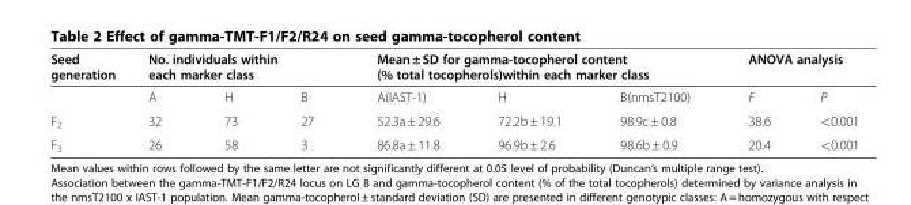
<table><thead><tr><td rowspan="2">Seed generation</td><td colspan="3">No. individuals within each marker class</td><td colspan="3">Mean ± SD for gamma-tocopherol content (% total tocopherols)within each marker class</td><td colspan="2">ANOVA analysis</td></tr><tr><td>A</td><td>H</td><td>B</td><td>A(IAST-1)</td><td>H</td><td>B(nmsT2100)</td><td>F</td><td>P</td></tr></thead><tbody><tr><td>F<sub>2</sub></td><td>32</td><td>73</td><td>27</td><td>52.3a ± 29.6</td><td>72.2b ± 19.1</td><td>98.9c ± 0.8</td><td>38.6</td><td>&lt;0.001</td></tr><tr><td>F<sub>3</sub></td><td>26</td><td>58</td><td>3</td><td>86.8a ± 11.8</td><td>96.9b ± 2.6</td><td>98.6b ± 0.9</td><td>20.4</td><td>&lt;0.001</td></tr></tbody></table>